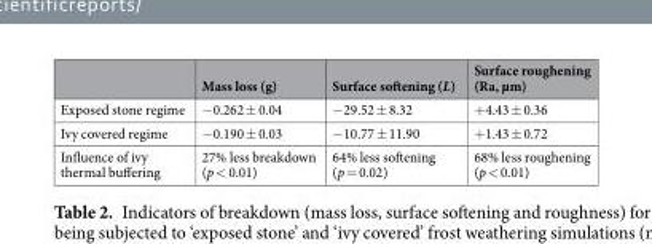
<table><thead><tr><td></td><td>Mass loss (g)</td><td>Surface softening (L)</td><td>Surface roughening (Ra, µm)</td></tr></thead><tbody><tr><td>Exposed stone regime</td><td>−0.262 ± 0.04</td><td>−29.52 ± 8.32</td><td>+4.43 ± 0.36</td></tr><tr><td>Ivy covered regime</td><td>−0.190 ± 0.03</td><td>−10.77 ± 11.90</td><td>+1.43 ± 0.72</td></tr><tr><td>Influence of ivy thermal buffering</td><td>27% less breakdown (p &lt; 0.01)</td><td>64% less softening (p = 0.02)</td><td>68% less roughening (p &lt; 0.01)</td></tr></tbody></table>